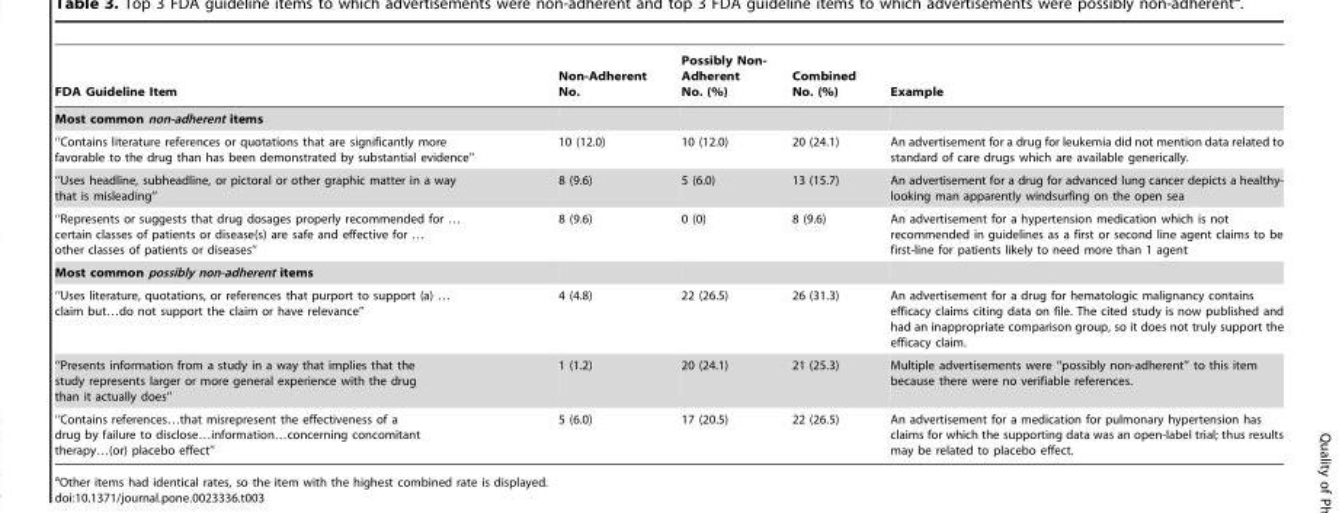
<table><thead><tr><td>FDA Guideline Item</td><td>Non-Adherent No.</td><td>Possibly Non- Adherent No. (%)</td><td>Combined No. (%)</td><td>Example</td></tr></thead><tbody><tr><td colspan="5">Most common non-adherent items</td></tr><tr><td>‘‘Contains literature references or quotations that are significantly more favorable to the drug than has been demonstrated by substantial evidence’’</td><td>10 (12.0)</td><td>10 (12.0)</td><td>20 (24.1)</td><td>An advertisement for a drug for leukemia did not mention data related to standard of care drugs which are available generically.</td></tr><tr><td>‘‘Uses headline, subheadline, or pictoral or other graphic matter in a way that is misleading’’</td><td>8 (9.6)</td><td>5 (6.0)</td><td>13 (15.7)</td><td>An advertisement for a drug for advanced lung cancer depicts a healthy- looking man apparently windsurfing on the open sea</td></tr><tr><td>‘‘Represents or suggests that drug dosages properly recommended for … certain classes of patients or disease(s) are safe and effective for … other classes of patients or diseases’’</td><td>8 (9.6)</td><td>0 (0)</td><td>8 (9.6)</td><td>An advertisement for a hypertension medication which is not recommended in guidelines as a first or second line agent claims to be first-line for patients likely to need more than 1 agent</td></tr><tr><td colspan="5">Most common possibly non-adherent items</td></tr><tr><td>‘‘Uses literature, quotations, or references that purport to support (a) … claim but…do not support the claim or have relevance’’</td><td>4 (4.8)</td><td>22 (26.5)</td><td>26 (31.3)</td><td>An advertisement for a drug for hematologic malignancy contains efficacy claims citing data on file. The cited study is now published and had an inappropriate comparison group, so it does not truly support the efficacy claim.</td></tr><tr><td>‘‘Presents information from a study in a way that implies that the study represents larger or more general experience with the drug than it actually does’’</td><td>1 (1.2)</td><td>20 (24.1)</td><td>21 (25.3)</td><td>Multiple advertisements were ‘‘possibly non-adherent’’ to this item because there were no verifiable references.</td></tr><tr><td>‘‘Contains references…that misrepresent the effectiveness of a drug by failure to disclose…information…concerning concomitant therapy…(or) placebo effect’’</td><td>5 (6.0)</td><td>17 (20.5)</td><td>22 (26.5)</td><td>An advertisement for a medication for pulmonary hypertension has claims for which the supporting data was an open-label trial; thus results may be related to placebo effect.</td></tr></tbody></table>